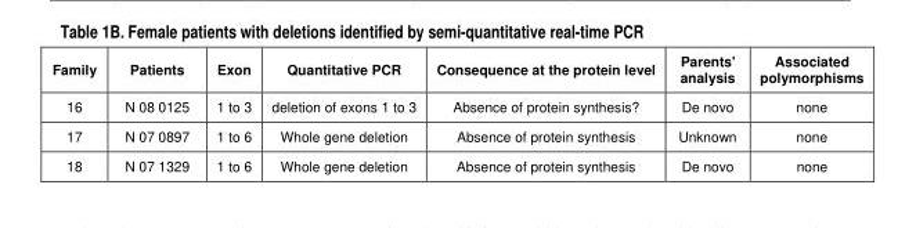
<table><thead><tr><td>Family</td><td>Patients</td><td>Exon</td><td>Quantitative PCR</td><td>Consequence at the protein level</td><td>Parents&#x27; analysis</td><td>Associated polymorphisms</td></tr></thead><tbody><tr><td>16</td><td>N 08 0125</td><td>1 to 3</td><td>deletion of exons 1 to 3</td><td>Absence of protein synthesis?</td><td>De novo</td><td>none</td></tr><tr><td>17</td><td>N 07 0897</td><td>1 to 6</td><td>Whole gene deletion</td><td>Absence of protein synthesis</td><td>Unknown</td><td>none</td></tr><tr><td>18</td><td>N 07 1329</td><td>1 to 6</td><td>Whole gene deletion</td><td>Absence of protein synthesis</td><td>De novo</td><td>none</td></tr></tbody></table>